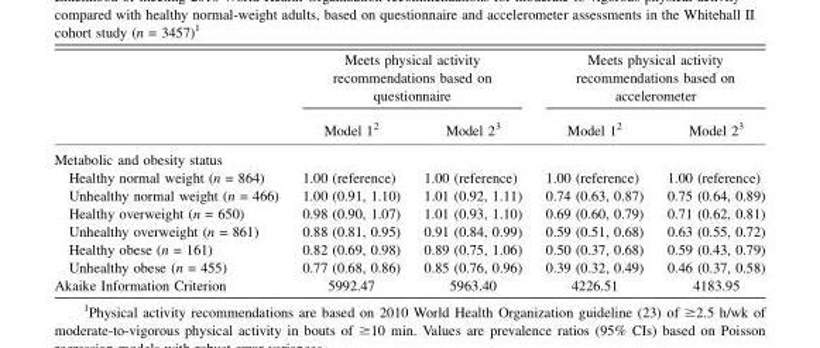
<table><thead><tr><td rowspan="2"></td><td colspan="2">Meets physical activity recommendations based on questionnaire</td><td colspan="2">Meets physical activity recommendations based on accelerometer</td></tr><tr><td>Model 1<sup>2</sup></td><td>Model 2<sup>3</sup></td><td>Model 1<sup>2</sup></td><td>Model 2<sup>3</sup></td></tr></thead><tbody><tr><td colspan="5">Metabolic and obesity status</td></tr><tr><td>Healthy normal weight (n = 864)</td><td>1.00 (reference)</td><td>1.00 (reference)</td><td>1.00 (reference)</td><td>1.00 (reference)</td></tr><tr><td>Unhealthy normal weight (n = 466)</td><td>1.00 (0.91, 1.10)</td><td>1.01 (0.92, 1.11)</td><td>0.74 (0.63, 0.87)</td><td>0.75 (0.64, 0.89)</td></tr><tr><td>Healthy overweight (n = 650)</td><td>0.98 (0.90, 1.07)</td><td>1.01 (0.93, 1.10)</td><td>0.69 (0.60, 0.79)</td><td>0.71 (0.62, 0.81)</td></tr><tr><td>Unhealthy overweight (n = 861)</td><td>0.88 (0.81, 0.95)</td><td>0.91 (0.84, 0.99)</td><td>0.59 (0.51, 0.68)</td><td>0.63 (0.55, 0.72)</td></tr><tr><td>Healthy obese (n = 161)</td><td>0.82 (0.69, 0.98)</td><td>0.89 (0.75, 1.06)</td><td>0.50 (0.37, 0.68)</td><td>0.59 (0.43, 0.79)</td></tr><tr><td>Unhealthy obese (n = 455)</td><td>0.77 (0.68, 0.86)</td><td>0.85 (0.76, 0.96)</td><td>0.39 (0.32, 0.49)</td><td>0.46 (0.37, 0.58)</td></tr><tr><td>Akaike Information Criterion</td><td>5992.47</td><td>5963.40</td><td>4226.51</td><td>4183.95</td></tr></tbody></table>